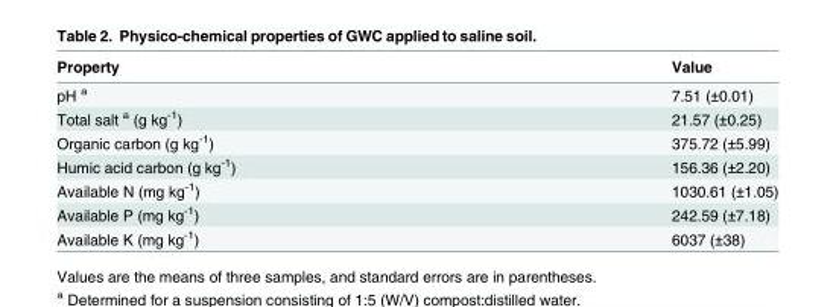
<table><thead><tr><td>Property</td><td>Value</td></tr></thead><tbody><tr><td>pH <sup>a</sup></td><td>7.51 (±0.01)</td></tr><tr><td>Total salt <sup>a</sup> (g kg<sup>-1</sup>)</td><td>21.57 (±0.25)</td></tr><tr><td>Organic carbon (g kg<sup>-1</sup>)</td><td>375.72 (±5.99)</td></tr><tr><td>Humic acid carbon (g kg<sup>-1</sup>)</td><td>156.36 (±2.20)</td></tr><tr><td>Available N (mg kg<sup>-1</sup>)</td><td>1030.61 (±1.05)</td></tr><tr><td>Available P (mg kg<sup>-1</sup>)</td><td>242.59 (±7.18)</td></tr><tr><td>Available K (mg kg<sup>-1</sup>)</td><td>6037 (±38)</td></tr></tbody></table>